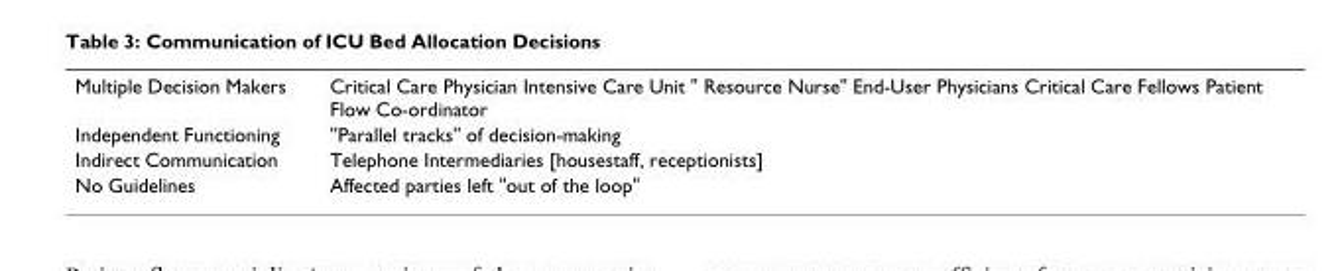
<table><tbody><tr><td>Multiple Decision Makers</td><td>Critical Care Physician Intensive Care Unit &quot; Resource Nurse&quot; End-User Physicians Critical Care Fellows Patient Flow Co-ordinator</td></tr><tr><td>Independent Functioning</td><td>&#x27;&#x27;Parallel tracks&#x27;&#x27; of decision-making</td></tr><tr><td>Indirect Communication</td><td>Telephone Intermediaries [housestaff, receptionists]</td></tr><tr><td>No Guidelines</td><td>Affected parties left &quot;out of the loop&quot;</td></tr></tbody></table>